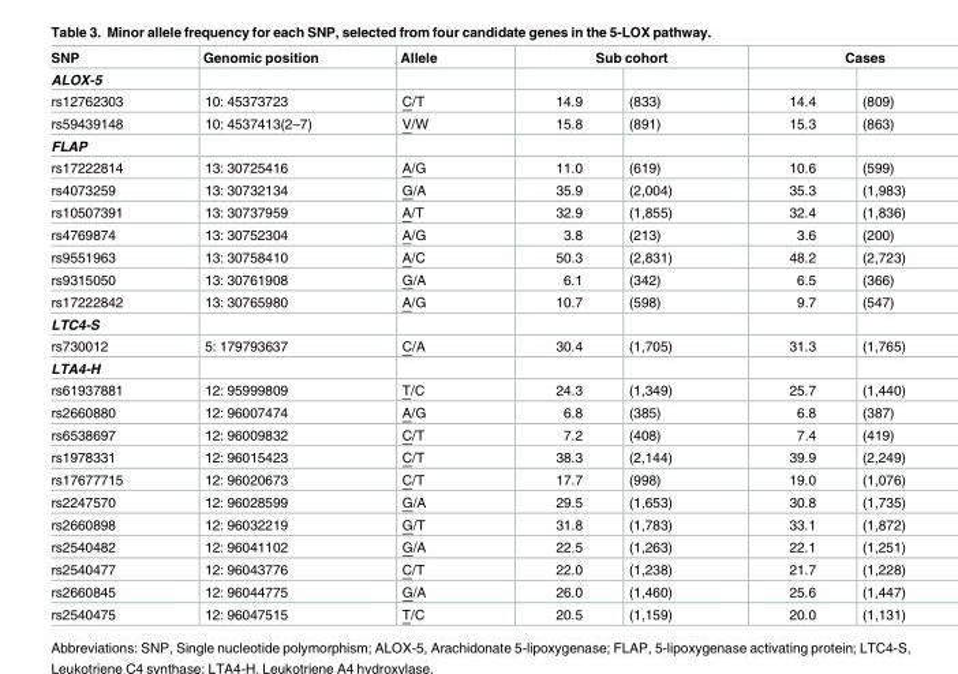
<table><thead><tr><td rowspan="2">SNP ALOX-5</td><td rowspan="2">Genomic position</td><td rowspan="2">Allele</td><td colspan="2">Sub cohort</td><td colspan="2">Cases</td></tr><tr><td></td><td></td><td></td><td></td></tr></thead><tbody><tr><td>rs12762303</td><td>10: 45373723</td><td>C/T</td><td>14.9</td><td>(833)</td><td>14.4</td><td>(809)</td></tr><tr><td>rs59439148</td><td>10: 4537413(2–7)</td><td>V/W</td><td>15.8</td><td>(891)</td><td>15.3</td><td>(863)</td></tr><tr><td colspan="7">FLAP</td></tr><tr><td>rs17222814</td><td>13: 30725416</td><td>A/G</td><td>11.0</td><td>(619)</td><td>10.6</td><td>(599)</td></tr><tr><td>rs4073259</td><td>13: 30732134</td><td>G/A</td><td>35.9</td><td>(2,004)</td><td>35.3</td><td>(1,983)</td></tr><tr><td>rs10507391</td><td>13: 30737959</td><td>A/T</td><td>32.9</td><td>(1,855)</td><td>32.4</td><td>(1,836)</td></tr><tr><td>rs4769874</td><td>13: 30752304</td><td>A/G</td><td>3.8</td><td>(213)</td><td>3.6</td><td>(200)</td></tr><tr><td>rs9551963</td><td>13: 30758410</td><td>A/C</td><td>50.3</td><td>(2,831)</td><td>48.2</td><td>(2,723)</td></tr><tr><td>rs9315050</td><td>13: 30761908</td><td>G/A</td><td>6.1</td><td>(342)</td><td>6.5</td><td>(366)</td></tr><tr><td>rs17222842</td><td>13: 30765980</td><td>A/G</td><td>10.7</td><td>(598)</td><td>9.7</td><td>(547)</td></tr><tr><td colspan="7">LTC4-S</td></tr><tr><td>rs730012</td><td>5: 179793637</td><td>C/A</td><td>30.4</td><td>(1,705)</td><td>31.3</td><td>(1,765)</td></tr><tr><td colspan="7">LTA4-H</td></tr><tr><td>rs61937881</td><td>12: 95999809</td><td>T/C</td><td>24.3</td><td>(1,349)</td><td>25.7</td><td>(1,440)</td></tr><tr><td>rs2660880</td><td>12: 96007474</td><td>A/G</td><td>6.8</td><td>(385)</td><td>6.8</td><td>(387)</td></tr><tr><td>rs6538697</td><td>12: 96009832</td><td>C/T</td><td>7.2</td><td>(408)</td><td>7.4</td><td>(419)</td></tr><tr><td>rs1978331</td><td>12: 96015423</td><td>C/T</td><td>38.3</td><td>(2,144)</td><td>39.9</td><td>(2,249)</td></tr><tr><td>rs17677715</td><td>12: 96020673</td><td>C/T</td><td>17.7</td><td>(998)</td><td>19.0</td><td>(1,076)</td></tr><tr><td>rs2247570</td><td>12: 96028599</td><td>G/A</td><td>29.5</td><td>(1,653)</td><td>30.8</td><td>(1,735)</td></tr><tr><td>rs2660898</td><td>12: 96032219</td><td>G/T</td><td>31.8</td><td>(1,783)</td><td>33.1</td><td>(1,872)</td></tr><tr><td>rs2540482</td><td>12: 96041102</td><td>G/A</td><td>22.5</td><td>(1,263)</td><td>22.1</td><td>(1,251)</td></tr><tr><td>rs2540477</td><td>12: 96043776</td><td>C/T</td><td>22.0</td><td>(1,238)</td><td>21.7</td><td>(1,228)</td></tr><tr><td>rs2660845</td><td>12: 96044775</td><td>G/A</td><td>26.0</td><td>(1,460)</td><td>25.6</td><td>(1,447)</td></tr><tr><td>rs2540475</td><td>12: 96047515</td><td>T/C</td><td>20.5</td><td>(1,159)</td><td>20.0</td><td>(1,131)</td></tr></tbody></table>